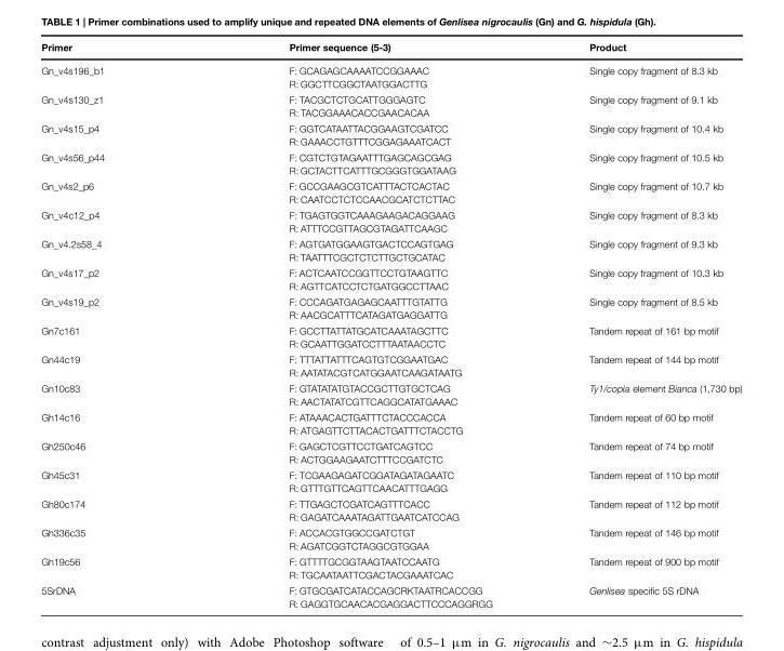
<table><thead><tr><td>Primer</td><td>Primer sequence (5-3)</td><td>Product</td></tr></thead><tbody><tr><td>Gn_v4s196_b1</td><td>F: GCAGAGCAAAATCCGGAAAC R: GGCTTCGGCTAATGGACTTG</td><td>Single copy fragment of 8.3 kb</td></tr><tr><td>Gn_v4s130_z1</td><td>F: TACGCTCTGCATTGGGAGTC R: TACGGAAACACCGAACACAA</td><td>Single copy fragment of 9.1 kb</td></tr><tr><td>Gn_v4s15_p4</td><td>F: GGTCATAATTACGGAAGTCGATCC R: GAAACCTGTTTCGGAGAAATCACT</td><td>Single copy fragment of 10.4 kb</td></tr><tr><td>Gn_v4s56_p44</td><td>F: CGTCTGTAGAATTTGAGCAGCGAG R: GCTACTTCATTTGCGGGTGGATAAG</td><td>Single copy fragment of 10.5 kb</td></tr><tr><td>Gn_v4s2_p6</td><td>F: GCCGAAGCGTCATTTACTCACTAC R: CAATCCTCTCCAACGCATCTCTTAC</td><td>Single copy fragment of 10.7 kb</td></tr><tr><td>Gn_v4c12_p4</td><td>F: TGAGTGGTCAAAGAAGACAGGAAG R: ATTTCCGTTAGCGTAGATTCAAGC</td><td>Single copy fragment of 8.3 kb</td></tr><tr><td>Gn_v4.2s58_4</td><td>F: AGTGATGGAAGTGACTCCAGTGAG R: TAATTTCGCTCTCTTGCTGCATAC</td><td>Single copy fragment of 9.3 kb</td></tr><tr><td>Gn_v4s17_p2</td><td>F: ACTCAATCCGGTTCCTGTAAGTTC R: AGTTCATCCTCTGATGGCCTTAAC</td><td>Single copy fragment of 10.3 kb</td></tr><tr><td>Gn_v4s19_p2</td><td>F: CCCAGATGAGAGCAATTTGTATTG R: AACGCATTTCATAGATGAGGATTG</td><td>Single copy fragment of 8.5 kb</td></tr><tr><td>Gn7c161</td><td>F: GCCTTATTATGCATCAAATAGCTTC R: GCAATTGGATCCTTTAATAACCTC</td><td>Tandem repeat of 161 bp motif</td></tr><tr><td>Gn44c19</td><td>F: TTTATTATTTCAGTGTCGGAATGAC R: AATATACGTCATGGAATCAAGATAATG</td><td>Tandem repeat of 144 bp motif</td></tr><tr><td>Gn10c83</td><td>F: GTATATATGTACCGCTTGTGCTCAG R: AACTATATCGTTCAGGCATATGAAAC</td><td>Ty1/copia element Bianca (1,730 bp)</td></tr><tr><td>Gh14c16</td><td>F: ATAAACACTGATTTCTACCCACCA R: ATGAGTTCTTACACTGATTTCTACCTG</td><td>Tandem repeat of 60 bp motif</td></tr><tr><td>Gh250c46</td><td>F: GAGCTCGTTCCTGATCAGTCC R: ACTGGAAGAATCTTTCCGATCTC</td><td>Tandem repeat of 74 bp motif</td></tr><tr><td>Gh45c31</td><td>F: TCGAAGAGATCGGATAGATAGAATC R: GTTTGTTCAGTTCAACATTTGAGG</td><td>Tandem repeat of 110 bp motif</td></tr><tr><td>Gh80c174</td><td>F: TTGAGCTCGATCAGTTTCACC R: GAGATCAAATAGATTGAATCATCCAG</td><td>Tandem repeat of 112 bp motif</td></tr><tr><td>Gh336c35</td><td>F: ACCACGTGGCCGATCTGT R: AGATCGGTCTAGGCGTGGAA</td><td>Tandem repeat of 146 bp motif</td></tr><tr><td>Gh19c56</td><td>F: GTTTTGCGGTAAGTAATCCAATG R: TGCAATAATTCGACTACGAAATCAC</td><td>Tandem repeat of 900 bp motif</td></tr><tr><td>5SrDNA</td><td>F: GTGCGATCATACCAGCRKTAATRCACCGG R: GAGGTGCAACACGAGGACTTCCCAGGRGG</td><td>Genlisea specific 5S rDNA</td></tr></tbody></table>